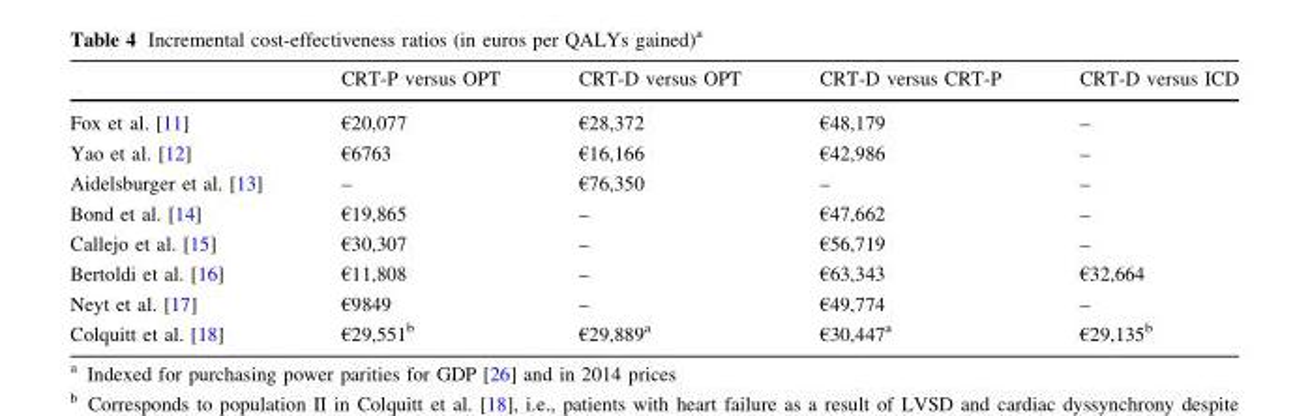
<table><thead><tr><td></td><td>CRT-P versus OPT</td><td>CRT-D versus OPT</td><td>CRT-D versus CRT-P</td><td>CRT-D versus ICD</td></tr></thead><tbody><tr><td>Fox et al. [11]</td><td>€20,077</td><td>€28,372</td><td>€48,179</td><td>–</td></tr><tr><td>Yao et al. [12]</td><td>€6763</td><td>€16,166</td><td>€42,986</td><td>–</td></tr><tr><td>Aidelsburger et al. [13]</td><td>–</td><td>€76,350</td><td>–</td><td>–</td></tr><tr><td>Bond et al. [14]</td><td>€19,865</td><td>–</td><td>€47,662</td><td>–</td></tr><tr><td>Callejo et al. [15]</td><td>€30,307</td><td>–</td><td>€56,719</td><td>–</td></tr><tr><td>Bertoldi et al. [16]</td><td>€11,808</td><td>–</td><td>€63,343</td><td>€32,664</td></tr><tr><td>Neyt et al. [17]</td><td>€9849</td><td>–</td><td>€49,774</td><td>–</td></tr><tr><td>Colquitt et al. [18]</td><td>€29,551<sup>b</sup></td><td>€29,889<sup>a</sup></td><td>€30,447<sup>a</sup></td><td>€29,135<sup>b</sup></td></tr></tbody></table>